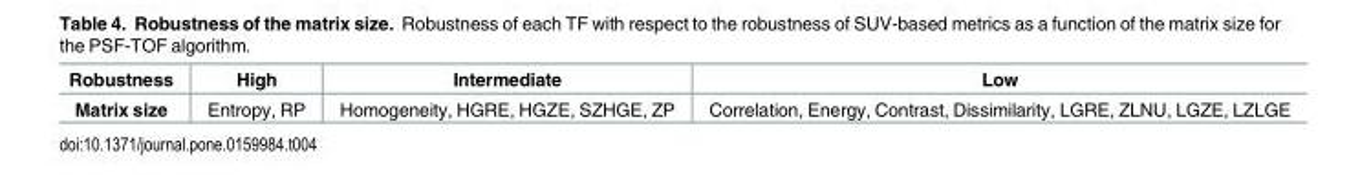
<table><thead><tr><td>Robustness</td><td>High</td><td>Intermediate</td><td>Low</td></tr></thead><tbody><tr><td>Matrix size</td><td>Entropy, RP</td><td>Homogeneity, HGRE, HGZE, SZHGE, ZP</td><td>Correlation, Energy, Contrast, Dissimilarity, LGRE, ZLNU, LGZE, LZLGE</td></tr></tbody></table>